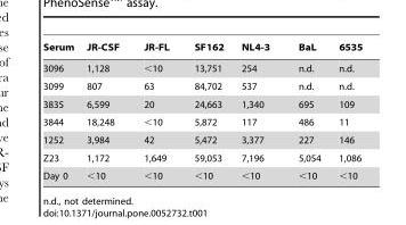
<table><thead><tr><td>Serum</td><td>JR-CSF</td><td>JR-FL</td><td>SF162</td><td>NL4-3</td><td>BaL</td><td>6535</td></tr></thead><tbody><tr><td>3096</td><td>1,128</td><td>&lt;10</td><td>13,751</td><td>254</td><td>n.d.</td><td>n.d.</td></tr><tr><td>3099</td><td>807</td><td>63</td><td>84,702</td><td>537</td><td>n.d.</td><td>n.d.</td></tr><tr><td>3835</td><td>6,599</td><td>20</td><td>24,663</td><td>1,340</td><td>695</td><td>109</td></tr><tr><td>3844</td><td>18,248</td><td>&lt;10</td><td>5,872</td><td>117</td><td>486</td><td>11</td></tr><tr><td>1252</td><td>3,984</td><td>42</td><td>5,472</td><td>3,377</td><td>227</td><td>146</td></tr><tr><td>Z23</td><td>1,172</td><td>1,649</td><td>59,053</td><td>7,196</td><td>5,054</td><td>1,086</td></tr><tr><td>Day 0</td><td>&lt;10</td><td>&lt;10</td><td>&lt;10</td><td>&lt;10</td><td>&lt;10</td><td>&lt;10</td></tr></tbody></table>